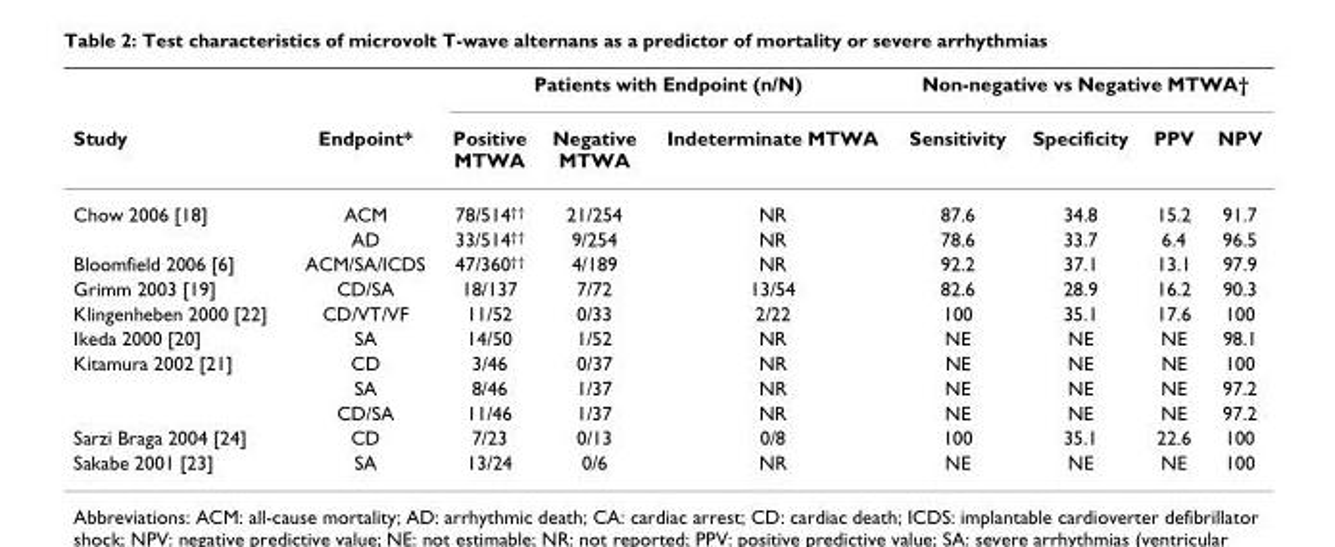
<table><thead><tr><td rowspan="2">Study</td><td rowspan="2">Endpoint*</td><td colspan="3">Patients with Endpoint (n/N)</td><td colspan="4">Non-negative vs Negative MTWA†</td></tr><tr><td>Positive MTWA</td><td>Negative MTWA</td><td>Indeterminate MTWA</td><td>Sensitivity</td><td>Specificity</td><td>PPV</td><td>NPV</td></tr></thead><tbody><tr><td rowspan="2">Chow 2006 [18]</td><td>ACM</td><td>78/514<sup>††</sup></td><td>21/254</td><td>NR</td><td>87.6</td><td>34.8</td><td>15.2</td><td>91.7</td></tr><tr><td>AD</td><td>33/514<sup>††</sup></td><td>9/254</td><td>NR</td><td>78.6</td><td>33.7</td><td>6.4</td><td>96.5</td></tr><tr><td>Bloomfield 2006 [6]</td><td>ACM/SA/ICDS</td><td>47/360<sup>††</sup></td><td>4/189</td><td>NR</td><td>92.2</td><td>37.1</td><td>13.1</td><td>97.9</td></tr><tr><td>Grimm 2003 [19]</td><td>CD/SA</td><td>18/137</td><td>7/72</td><td>13/54</td><td>82.6</td><td>28.9</td><td>16.2</td><td>90.3</td></tr><tr><td>Klingenheben 2000 [22]</td><td>CD/VT/VF</td><td>11/52</td><td>0/33</td><td>2/22</td><td>100</td><td>35.1</td><td>17.6</td><td>100</td></tr><tr><td>Ikeda 2000 [20]</td><td>SA</td><td>14/50</td><td>1/52</td><td>NR</td><td>NE</td><td>NE</td><td>NE</td><td>98.1</td></tr><tr><td rowspan="3">Kitamura 2002 [21]</td><td>CD</td><td>3/46</td><td>0/37</td><td>NR</td><td>NE</td><td>NE</td><td>NE</td><td>100</td></tr><tr><td>SA</td><td>8/46</td><td>1/37</td><td>NR</td><td>NE</td><td>NE</td><td>NE</td><td>97.2</td></tr><tr><td>CD/SA</td><td>11/46</td><td>1/37</td><td>NR</td><td>NE</td><td>NE</td><td>NE</td><td>97.2</td></tr><tr><td>Sarzi Braga 2004 [24]</td><td>CD</td><td>7/23</td><td>0/13</td><td>0/8</td><td>100</td><td>35.1</td><td>22.6</td><td>100</td></tr><tr><td>Sakabe 2001 [23]</td><td>SA</td><td>13/24</td><td>0/6</td><td>NR</td><td>NE</td><td>NE</td><td>NE</td><td>100</td></tr></tbody></table>